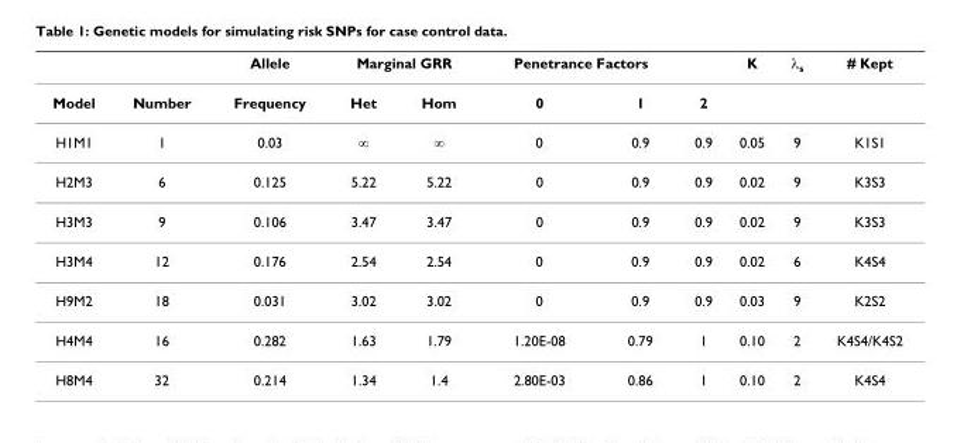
<table><thead><tr><td rowspan="2">Model</td><td rowspan="2">Number</td><td rowspan="2">Allele Frequency</td><td colspan="2">Marginal GRR</td><td colspan="2">Penetrance Factors</td><td rowspan="2">2</td><td rowspan="2">K</td><td rowspan="2">λ<sub>s</sub></td><td rowspan="2"># Kept</td></tr><tr><td>Het</td><td>Hom</td><td>0</td><td>1</td></tr></thead><tbody><tr><td>H1M1</td><td>1</td><td>0.03</td><td>∞</td><td>∞</td><td>0</td><td>0.9</td><td>0.9</td><td>0.05</td><td>9</td><td>K1S1</td></tr><tr><td>H2M3</td><td>6</td><td>0.125</td><td>5.22</td><td>5.22</td><td>0</td><td>0.9</td><td>0.9</td><td>0.02</td><td>9</td><td>K3S3</td></tr><tr><td>H3M3</td><td>9</td><td>0.106</td><td>3.47</td><td>3.47</td><td>0</td><td>0.9</td><td>0.9</td><td>0.02</td><td>9</td><td>K3S3</td></tr><tr><td>H3M4</td><td>12</td><td>0.176</td><td>2.54</td><td>2.54</td><td>0</td><td>0.9</td><td>0.9</td><td>0.02</td><td>6</td><td>K4S4</td></tr><tr><td>H9M2</td><td>18</td><td>0.031</td><td>3.02</td><td>3.02</td><td>0</td><td>0.9</td><td>0.9</td><td>0.03</td><td>9</td><td>K2S2</td></tr><tr><td>H4M4</td><td>16</td><td>0.282</td><td>1.63</td><td>1.79</td><td>1.20E-08</td><td>0.79</td><td>1</td><td>0.10</td><td>2</td><td>K4S4/K4S2</td></tr><tr><td>H8M4</td><td>32</td><td>0.214</td><td>1.34</td><td>1.4</td><td>2.80E-03</td><td>0.86</td><td>1</td><td>0.10</td><td>2</td><td>K4S4</td></tr></tbody></table>